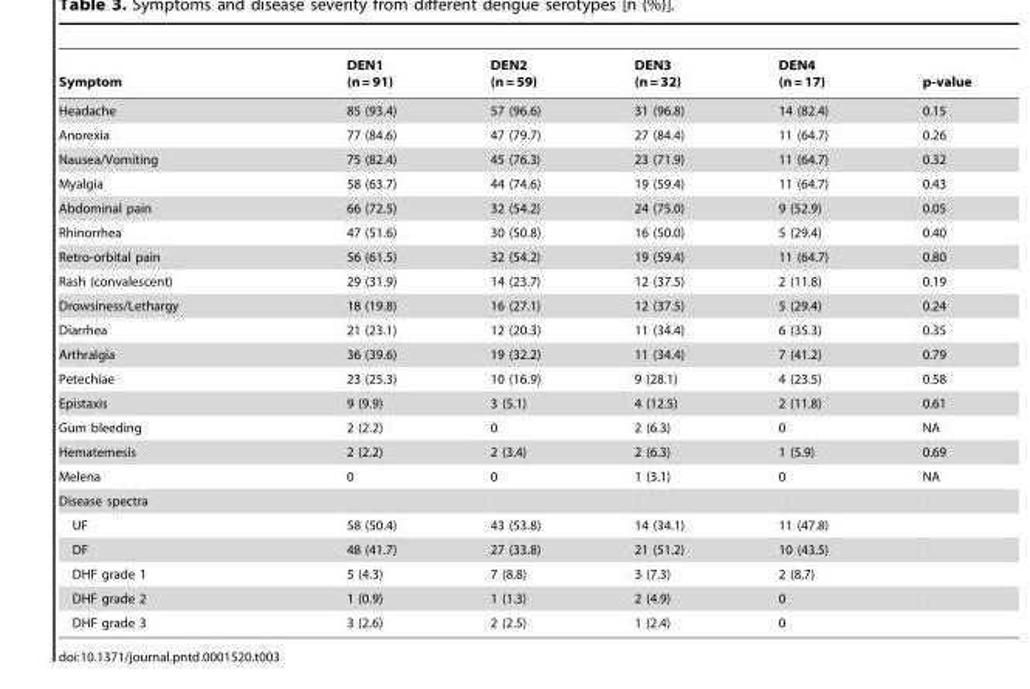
<table><thead><tr><td>Symptom</td><td>DEN1 (n = 91)</td><td>DEN2 (n = 59)</td><td>DEN3 (n = 32)</td><td>DEN4 (n = 17)</td><td>p-value</td></tr></thead><tbody><tr><td>Headache</td><td>85 (93.4)</td><td>57 (96.6)</td><td>31 (96.8)</td><td>14 (82.4)</td><td>0.15</td></tr><tr><td>Anorexia</td><td>77 (84.6)</td><td>47 (79.7)</td><td>27 (84.4)</td><td>11 (64.7)</td><td>0.26</td></tr><tr><td>Nausea/Vomiting</td><td>75 (82.4)</td><td>45 (76.3)</td><td>23 (71.9)</td><td>11 (64.7)</td><td>0.32</td></tr><tr><td>Myalgia</td><td>58 (63.7)</td><td>44 (74.6)</td><td>19 (59.4)</td><td>11 (64.7)</td><td>0.43</td></tr><tr><td>Abdominal pain</td><td>66 (72.5)</td><td>32 (54.2)</td><td>24 (75.0)</td><td>9 (52.9)</td><td>0.05</td></tr><tr><td>Rhinorrhea</td><td>47 (51.6)</td><td>30 (50.8)</td><td>16 (50.0)</td><td>5 (29.4)</td><td>0.40</td></tr><tr><td>Retro-orbital pain</td><td>56 (61.5)</td><td>32 (54.2)</td><td>19 (59.4)</td><td>11 (64.7)</td><td>0.80</td></tr><tr><td>Rash (convalescent)</td><td>29 (31.9)</td><td>14 (23.7)</td><td>12 (37.5)</td><td>2 (11.8)</td><td>0.19</td></tr><tr><td>Drowsiness/Lethargy</td><td>18 (19.8)</td><td>16 (27.1)</td><td>12 (37.5)</td><td>5 (29.4)</td><td>0.24</td></tr><tr><td>Diarrhea</td><td>21 (23.1)</td><td>12 (20.3)</td><td>11 (34.4)</td><td>6 (35.3)</td><td>0.35</td></tr><tr><td>Arthralgia</td><td>36 (39.6)</td><td>19 (32.2)</td><td>11 (34.4)</td><td>7 (41.2)</td><td>0.79</td></tr><tr><td>Petechiae</td><td>23 (25.3)</td><td>10 (16.9)</td><td>9 (28.1)</td><td>4 (23.5)</td><td>0.58</td></tr><tr><td>Epistaxis</td><td>9 (9.9)</td><td>3 (5.1)</td><td>4 (12.5)</td><td>2 (11.8)</td><td>0.61</td></tr><tr><td>Gum bleeding</td><td>2 (2.2)</td><td>0</td><td>2 (6.3)</td><td>0</td><td>NA</td></tr><tr><td>Hematemesis</td><td>2 (2.2)</td><td>2 (3.4)</td><td>2 (6.3)</td><td>1 (5.9)</td><td>0.69</td></tr><tr><td>Melena</td><td>0</td><td>0</td><td>1 (3.1)</td><td>0</td><td>NA</td></tr><tr><td colspan="6">Disease spectra</td></tr><tr><td>UF</td><td>58 (50.4)</td><td>43 (53.8)</td><td>14 (34.1)</td><td>11 (47.8)</td><td></td></tr><tr><td>DF</td><td>48 (41.7)</td><td>27 (33.8)</td><td>21 (51.2)</td><td>10 (43.5)</td><td></td></tr><tr><td>DHF grade 1</td><td>5 (4.3)</td><td>7 (8.8)</td><td>3 (7.3)</td><td>2 (8.7)</td><td></td></tr><tr><td>DHF grade 2</td><td>1 (0.9)</td><td>1 (1.3)</td><td>2 (4.9)</td><td>0</td><td></td></tr><tr><td>DHF grade 3</td><td>3 (2.6)</td><td>2 (2.5)</td><td>1 (2.4)</td><td>0</td><td></td></tr></tbody></table>